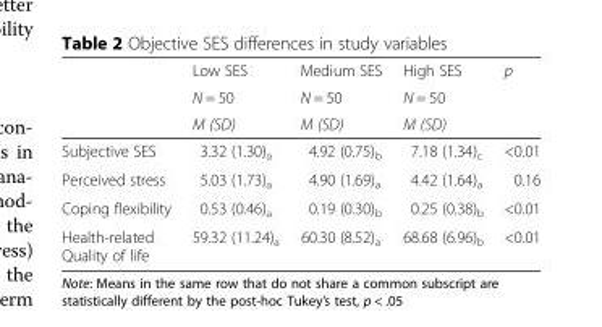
<table><thead><tr><td rowspan="3"></td><td rowspan="3">Low SES N = 50 M (SD)</td><td rowspan="3">Medium SES N = 50 M (SD)</td><td rowspan="3">High SES N = 50 M (SD)</td><td rowspan="3">p</td></tr><tr></tr><tr></tr></thead><tbody><tr><td>Subjective SES</td><td>3.32 (1.30)<sub>a</sub></td><td>4.92 (0.75)<sub>b</sub></td><td>7.18 (1.34)<sub>c</sub></td><td>&lt;0.01</td></tr><tr><td>Perceived stress</td><td>5.03 (1.73)<sub>a</sub></td><td>4.90 (1.69)<sub>a</sub></td><td>4.42 (1.64)<sub>a</sub></td><td>0.16</td></tr><tr><td>Coping flexibility</td><td>0.53 (0.46)<sub>a</sub></td><td>0.19 (0.30)<sub>b</sub></td><td>0.25 (0.38)<sub>b</sub></td><td>&lt;0.01</td></tr><tr><td>Health-related Quality of life</td><td>59.32 (11.24)<sub>a</sub></td><td>60.30 (8.52)<sub>a</sub></td><td>68.68 (6.96)<sub>b</sub></td><td>&lt;0.01</td></tr></tbody></table>